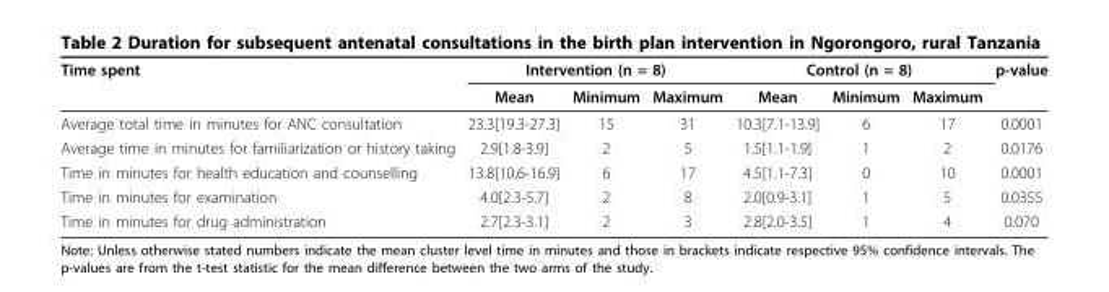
<table><thead><tr><td rowspan="2">Time spent</td><td colspan="3">Intervention (n = 8)</td><td colspan="3">Control (n = 8)</td><td rowspan="2">p-value</td></tr><tr><td>Mean</td><td>Minimum</td><td>Maximum</td><td>Mean</td><td>Minimum</td><td>Maximum</td></tr></thead><tbody><tr><td>Average total time in minutes for ANC consultation</td><td>23.3[19.3-27.3]</td><td>15</td><td>31</td><td>10.3[7.1-13.9]</td><td>6</td><td>17</td><td>0.0001</td></tr><tr><td>Average time in minutes for familiarization or history taking</td><td>2.9[1.8-3.9]</td><td>2</td><td>5</td><td>1.5[1.1-1.9]</td><td>1</td><td>2</td><td>0.0176</td></tr><tr><td>Time in minutes for health education and counselling</td><td>13.8[10.6-16.9]</td><td>6</td><td>17</td><td>4.5[1.1-7.3]</td><td>0</td><td>10</td><td>0.0001</td></tr><tr><td>Time in minutes for examination</td><td>4.0[2.3-5.7]</td><td>2</td><td>8</td><td>2.0[0.9-3.1]</td><td>1</td><td>5</td><td>0.0355</td></tr><tr><td>Time in minutes for drug administration</td><td>2.7[2.3-3.1]</td><td>2</td><td>3</td><td>2.8[2.0-3.5]</td><td>1</td><td>4</td><td>0.070</td></tr></tbody></table>